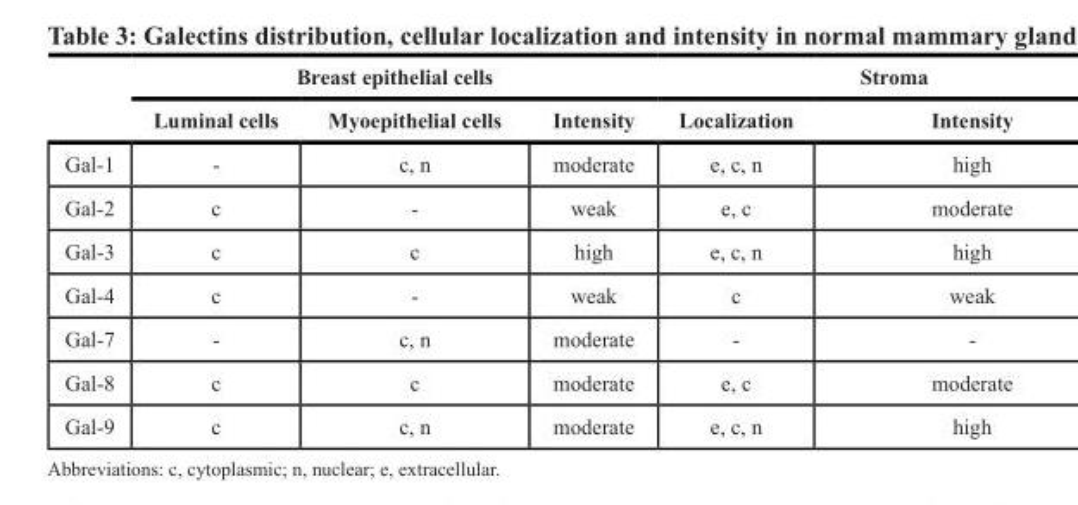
<table><thead><tr><td rowspan="2"></td><td colspan="3">Breast epithelial cells</td><td colspan="2">Stroma</td></tr><tr><td>Luminal cells</td><td>Myoepithelial cells</td><td>Intensity</td><td>Localization</td><td>Intensity</td></tr></thead><tbody><tr><td>Gal-1</td><td>-</td><td>c, n</td><td>moderate</td><td>e, c, n</td><td>high</td></tr><tr><td>Gal-2</td><td>c</td><td>-</td><td>weak</td><td>e, c</td><td>moderate</td></tr><tr><td>Gal-3</td><td>c</td><td>c</td><td>high</td><td>e, c, n</td><td>high</td></tr><tr><td>Gal-4</td><td>c</td><td>-</td><td>weak</td><td>c</td><td>weak</td></tr><tr><td>Gal-7</td><td>-</td><td>c, n</td><td>moderate</td><td>-</td><td>-</td></tr><tr><td>Gal-8</td><td>c</td><td>c</td><td>moderate</td><td>e, c</td><td>moderate</td></tr><tr><td>Gal-9</td><td>c</td><td>c, n</td><td>moderate</td><td>e, c, n</td><td>high</td></tr></tbody></table>